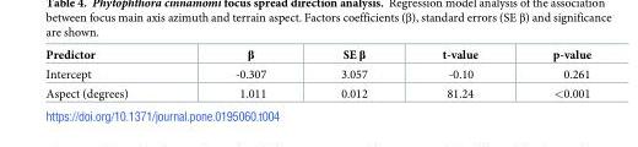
<table><thead><tr><td>Predictor</td><td>β</td><td>SE β</td><td>t-value</td><td>p-value</td></tr></thead><tbody><tr><td>Intercept</td><td>-0.307</td><td>3.057</td><td>-0.10</td><td>0.261</td></tr><tr><td>Aspect (degrees)</td><td>1.011</td><td>0.012</td><td>81.24</td><td>&lt;0.001</td></tr></tbody></table>